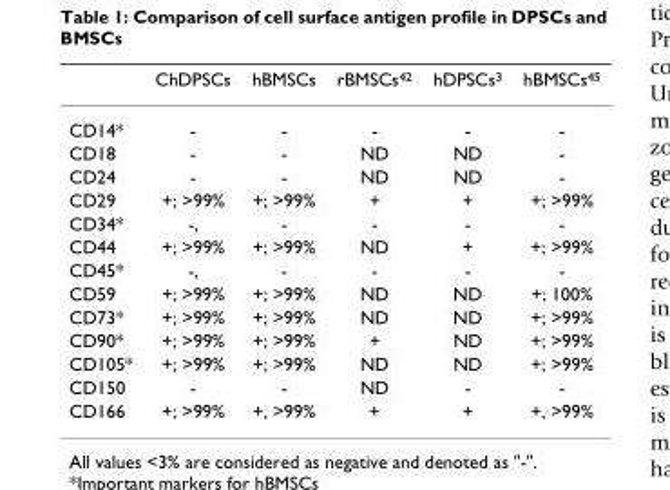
<table><thead><tr><td></td><td>ChDPSCs</td><td>hBMSCs</td><td>rBMSCs<sup>42</sup></td><td>hDPSCs<sup>3</sup></td><td>hBMSCs<sup>45</sup></td></tr></thead><tbody><tr><td>CD14*</td><td>-</td><td>-</td><td>-</td><td>-</td><td>-</td></tr><tr><td>CD18</td><td>-</td><td>-</td><td>ND</td><td>ND</td><td>-</td></tr><tr><td>CD24</td><td>-</td><td>-</td><td>ND</td><td>ND</td><td>-</td></tr><tr><td>CD29</td><td>+; &gt;99%</td><td>+; &gt;99%</td><td>+</td><td>+</td><td>+; &gt;99%</td></tr><tr><td>CD34*</td><td>-,</td><td>-</td><td>-</td><td>-</td><td>-</td></tr><tr><td>CD44</td><td>+; &gt;99%</td><td>+; &gt;99%</td><td>ND</td><td>+</td><td>+; &gt;99%</td></tr><tr><td>CD45*</td><td>-,</td><td>-</td><td>-</td><td>-</td><td>-</td></tr><tr><td>CD59</td><td>+; &gt;99%</td><td>+; &gt;99%</td><td>ND</td><td>ND</td><td>+; 100%</td></tr><tr><td>CD73*</td><td>+; &gt;99%</td><td>+; &gt;99%</td><td>ND</td><td>ND</td><td>+; &gt;99%</td></tr><tr><td>CD90*</td><td>+; &gt;99%</td><td>+; &gt;99%</td><td>+</td><td>ND</td><td>+; &gt;99%</td></tr><tr><td>CD105*</td><td>+; &gt;99%</td><td>+; &gt;99%</td><td>ND</td><td>ND</td><td>+; &gt;99%</td></tr><tr><td>CD150</td><td>-</td><td>-</td><td>ND</td><td>-</td><td>-</td></tr><tr><td>CD166</td><td>+; &gt;99%</td><td>+, &gt;99%</td><td>+</td><td>+</td><td>+, &gt;99%</td></tr></tbody></table>